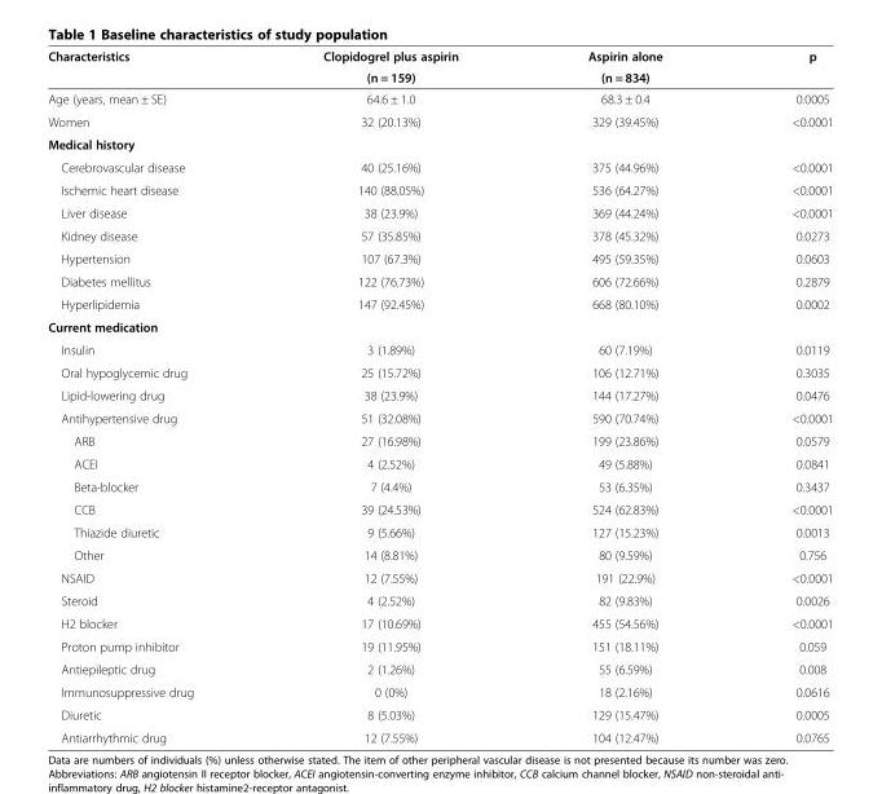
<table><thead><tr><td rowspan="2">Characteristics</td><td rowspan="2">Clopidogrel plus aspirin (n = 159)</td><td rowspan="2">Aspirin alone (n = 834)</td><td rowspan="2">p</td></tr><tr></tr></thead><tbody><tr><td>Age (years, mean ± SE)</td><td>64.6 ± 1.0</td><td>68.3 ± 0.4</td><td>0.0005</td></tr><tr><td>Women</td><td>32 (20.13%)</td><td>329 (39.45%)</td><td>&lt;0.0001</td></tr><tr><td colspan="4">Medical history</td></tr><tr><td>Cerebrovascular disease</td><td>40 (25.16%)</td><td>375 (44.96%)</td><td>&lt;0.0001</td></tr><tr><td>Ischemic heart disease</td><td>140 (88.05%)</td><td>536 (64.27%)</td><td>&lt;0.0001</td></tr><tr><td>Liver disease</td><td>38 (23.9%)</td><td>369 (44.24%)</td><td>&lt;0.0001</td></tr><tr><td>Kidney disease</td><td>57 (35.85%)</td><td>378 (45.32%)</td><td>0.0273</td></tr><tr><td>Hypertension</td><td>107 (67.3%)</td><td>495 (59.35%)</td><td>0.0603</td></tr><tr><td>Diabetes mellitus</td><td>122 (76.73%)</td><td>606 (72.66%)</td><td>0.2879</td></tr><tr><td>Hyperlipidemia</td><td>147 (92.45%)</td><td>668 (80.10%)</td><td>0.0002</td></tr><tr><td colspan="4">Current medication</td></tr><tr><td>Insulin</td><td>3 (1.89%)</td><td>60 (7.19%)</td><td>0.0119</td></tr><tr><td>Oral hypoglycemic drug</td><td>25 (15.72%)</td><td>106 (12.71%)</td><td>0.3035</td></tr><tr><td>Lipid-lowering drug</td><td>38 (23.9%)</td><td>144 (17.27%)</td><td>0.0476</td></tr><tr><td>Antihypertensive drug</td><td>51 (32.08%)</td><td>590 (70.74%)</td><td>&lt;0.0001</td></tr><tr><td>ARB</td><td>27 (16.98%)</td><td>199 (23.86%)</td><td>0.0579</td></tr><tr><td>ACEI</td><td>4 (2.52%)</td><td>49 (5.88%)</td><td>0.0841</td></tr><tr><td>Beta-blocker</td><td>7 (4.4%)</td><td>53 (6.35%)</td><td>0.3437</td></tr><tr><td>CCB</td><td>39 (24.53%)</td><td>524 (62.83%)</td><td>&lt;0.0001</td></tr><tr><td>Thiazide diuretic</td><td>9 (5.66%)</td><td>127 (15.23%)</td><td>0.0013</td></tr><tr><td>Other</td><td>14 (8.81%)</td><td>80 (9.59%)</td><td>0.756</td></tr><tr><td>NSAID</td><td>12 (7.55%)</td><td>191 (22.9%)</td><td>&lt;0.0001</td></tr><tr><td>Steroid</td><td>4 (2.52%)</td><td>82 (9.83%)</td><td>0.0026</td></tr><tr><td>H2 blocker</td><td>17 (10.69%)</td><td>455 (54.56%)</td><td>&lt;0.0001</td></tr><tr><td>Proton pump inhibitor</td><td>19 (11.95%)</td><td>151 (18.11%)</td><td>0.059</td></tr><tr><td>Antiepileptic drug</td><td>2 (1.26%)</td><td>55 (6.59%)</td><td>0.008</td></tr><tr><td>Immunosuppressive drug</td><td>0 (0%)</td><td>18 (2.16%)</td><td>0.0616</td></tr><tr><td>Diuretic</td><td>8 (5.03%)</td><td>129 (15.47%)</td><td>0.0005</td></tr><tr><td>Antiarrhythmic drug</td><td>12 (7.55%)</td><td>104 (12.47%)</td><td>0.0765</td></tr></tbody></table>